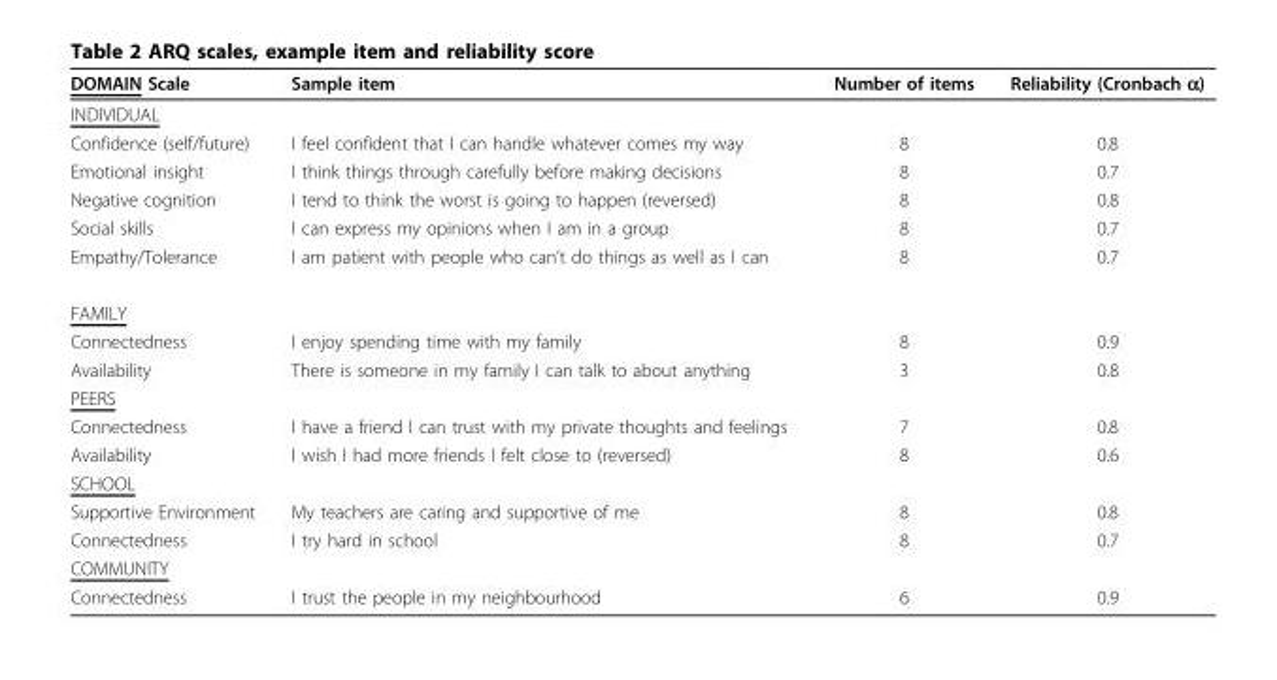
<table><thead><tr><td>DOMAIN Scale</td><td>Sample item</td><td>Number of items</td><td>Reliability (Cronbach α)</td></tr></thead><tbody><tr><td colspan="4">INDIVIDUAL</td></tr><tr><td>Confidence (self/future)</td><td>I feel confident that I can handle whatever comes my way</td><td>8</td><td>0.8</td></tr><tr><td>Emotional insight</td><td>I think things through carefully before making decisions</td><td>8</td><td>0.7</td></tr><tr><td>Negative cognition</td><td>I tend to think the worst is going to happen (reversed)</td><td>8</td><td>0.8</td></tr><tr><td>Social skills</td><td>I can express my opinions when I am in a group</td><td>8</td><td>0.7</td></tr><tr><td>Empathy/Tolerance</td><td>I am patient with people who can’t do things as well as I can</td><td>8</td><td>0.7</td></tr><tr><td colspan="4">FAMILY</td></tr><tr><td>Connectedness</td><td>I enjoy spending time with my family</td><td>8</td><td>0.9</td></tr><tr><td>Availability</td><td>There is someone in my family I can talk to about anything</td><td>3</td><td>0.8</td></tr><tr><td colspan="4">PEERS</td></tr><tr><td>Connectedness</td><td>I have a friend I can trust with my private thoughts and feelings</td><td>7</td><td>0.8</td></tr><tr><td>Availability</td><td>I wish I had more friends I felt close to (reversed)</td><td>8</td><td>0.6</td></tr><tr><td colspan="4">SCHOOL</td></tr><tr><td>Supportive Environment</td><td>My teachers are caring and supportive of me</td><td>8</td><td>0.8</td></tr><tr><td>Connectedness</td><td>I try hard in school</td><td>8</td><td>0.7</td></tr><tr><td colspan="4">COMMUNITY</td></tr><tr><td>Connectedness</td><td>I trust the people in my neighbourhood</td><td>6</td><td>0.9</td></tr></tbody></table>